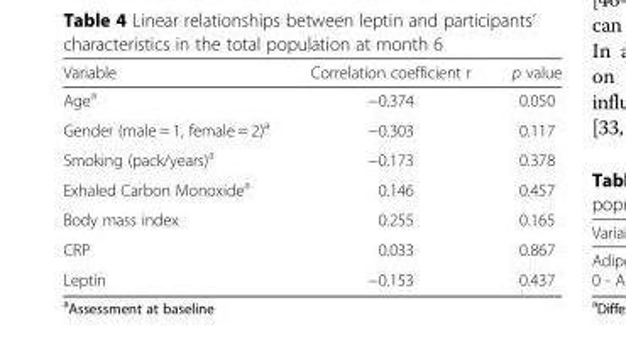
<table><thead><tr><td>Variable</td><td>Correlation coefficient r</td><td>p value</td></tr></thead><tbody><tr><td>Age<sup>a</sup></td><td>−0.374</td><td>0.050</td></tr><tr><td>Gender (male = 1, female = 2)<sup>a</sup></td><td>−0.303</td><td>0.117</td></tr><tr><td>Smoking (pack/years)<sup>a</sup></td><td>−0.173</td><td>0.378</td></tr><tr><td>Exhaled Carbon Monoxide<sup>a</sup></td><td>0.146</td><td>0.457</td></tr><tr><td>Body mass index</td><td>0.255</td><td>0.165</td></tr><tr><td>CRP</td><td>0.033</td><td>0.867</td></tr><tr><td>Leptin</td><td>−0.153</td><td>0.437</td></tr></tbody></table>